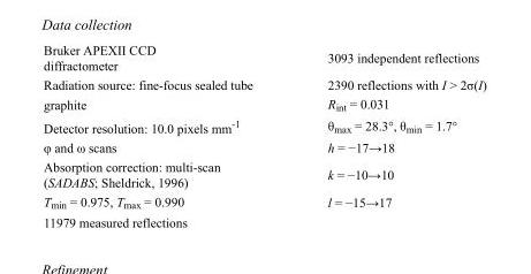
<table><tbody><tr><td>Bruker APEXII CCD diffractometer</td><td>3093 independent reflections</td></tr><tr><td>Radiation source: fine-focus sealed tube</td><td>2390 reflections with I &gt; 2σ(I)</td></tr><tr><td>graphite</td><td>R<sub>int</sub> = 0.031</td></tr><tr><td>Detector resolution: 10.0 pixels mm<sup>-1</sup></td><td>θ<sub>max</sub> = 28.3°, θ<sub>min</sub> = 1.7°</td></tr><tr><td>φ and ω scans</td><td>h = −17→18</td></tr><tr><td>Absorption correction: multi-scan (SADABS; Sheldrick, 1996)</td><td>k = −10→10</td></tr><tr><td>T<sub>min</sub> = 0.975, T<sub>max</sub> = 0.990</td><td>l = −15→17</td></tr><tr><td>11979 measured reflections</td><td></td></tr></tbody></table>